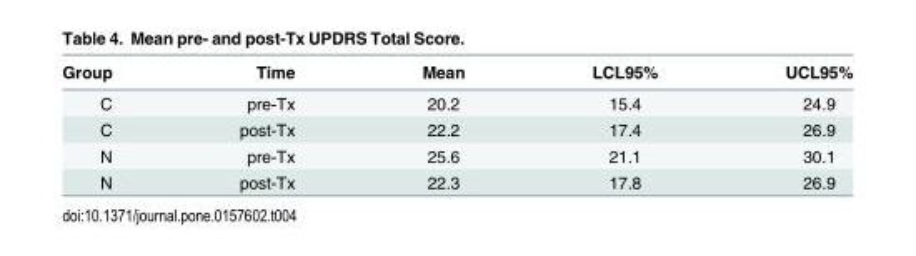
<table><thead><tr><td>Group</td><td>Time</td><td>Mean</td><td>LCL95%</td><td>UCL95%</td></tr></thead><tbody><tr><td>C</td><td>pre-Tx</td><td>20.2</td><td>15.4</td><td>24.9</td></tr><tr><td>C</td><td>post-Tx</td><td>22.2</td><td>17.4</td><td>26.9</td></tr><tr><td>N</td><td>pre-Tx</td><td>25.6</td><td>21.1</td><td>30.1</td></tr><tr><td>N</td><td>post-Tx</td><td>22.3</td><td>17.8</td><td>26.9</td></tr></tbody></table>